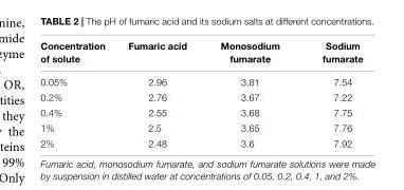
<table><thead><tr><td>Concentration of solute</td><td>Fumaric acid</td><td>Monosodium fumarate</td><td>Sodium fumarate</td></tr></thead><tbody><tr><td>0.05%</td><td>2.96</td><td>3.81</td><td>7.54</td></tr><tr><td>0.2%</td><td>2.76</td><td>3.67</td><td>7.22</td></tr><tr><td>0.4%</td><td>2.55</td><td>3.68</td><td>7.75</td></tr><tr><td>1%</td><td>2.5</td><td>3.65</td><td>7.76</td></tr><tr><td>2%</td><td>2.48</td><td>3.6</td><td>7.92</td></tr></tbody></table>